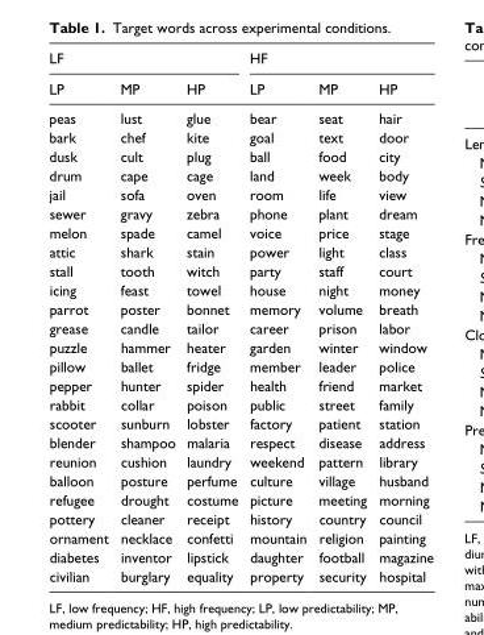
<table><thead><tr><td colspan="3">LF</td><td colspan="3">HF</td></tr><tr><td>LP</td><td>MP</td><td>HP</td><td>LP</td><td>MP</td><td>HP</td></tr></thead><tbody><tr><td>peas</td><td>lust</td><td>glue</td><td>bear</td><td>seat</td><td>hair</td></tr><tr><td>bark</td><td>chef</td><td>kite</td><td>goal</td><td>text</td><td>door</td></tr><tr><td>dusk</td><td>cult</td><td>plug</td><td>ball</td><td>food</td><td>city</td></tr><tr><td>drum</td><td>cape</td><td>cage</td><td>land</td><td>week</td><td>body</td></tr><tr><td>jail</td><td>sofa</td><td>oven</td><td>room</td><td>life</td><td>view</td></tr><tr><td>sewer</td><td>gravy</td><td>zebra</td><td>phone</td><td>plant</td><td>dream</td></tr><tr><td>melon</td><td>spade</td><td>camel</td><td>voice</td><td>price</td><td>stage</td></tr><tr><td>attic</td><td>shark</td><td>stain</td><td>power</td><td>light</td><td>class</td></tr><tr><td>stall</td><td>tooth</td><td>witch</td><td>party</td><td>staff</td><td>court</td></tr><tr><td>icing</td><td>feast</td><td>towel</td><td>house</td><td>night</td><td>money</td></tr><tr><td>parrot</td><td>poster</td><td>bonnet</td><td>memory</td><td>volume</td><td>breath</td></tr><tr><td>grease</td><td>candle</td><td>tailor</td><td>career</td><td>prison</td><td>labor</td></tr><tr><td>puzzle</td><td>hammer</td><td>heater</td><td>garden</td><td>winter</td><td>window</td></tr><tr><td>pillow</td><td>ballet</td><td>fridge</td><td>member</td><td>leader</td><td>police</td></tr><tr><td>pepper</td><td>hunter</td><td>spider</td><td>health</td><td>friend</td><td>market</td></tr><tr><td>rabbit</td><td>collar</td><td>poison</td><td>public</td><td>street</td><td>family</td></tr><tr><td>scooter</td><td>sunburn</td><td>lobster</td><td>factory</td><td>patient</td><td>station</td></tr><tr><td>blender</td><td>shampoo</td><td>malaria</td><td>respect</td><td>disease</td><td>address</td></tr><tr><td>reunion</td><td>cushion</td><td>laundry</td><td>weekend</td><td>pattern</td><td>library</td></tr><tr><td>balloon</td><td>posture</td><td>perfume</td><td>culture</td><td>village</td><td>husband</td></tr><tr><td>refugee</td><td>drought</td><td>costume</td><td>picture</td><td>meeting</td><td>morning</td></tr><tr><td>pottery</td><td>cleaner</td><td>receipt</td><td>history</td><td>country</td><td>council</td></tr><tr><td>ornament</td><td>necklace</td><td>confetti</td><td>mountain</td><td>religion</td><td>painting</td></tr><tr><td>diabetes</td><td>inventor</td><td>lipstick</td><td>daughter</td><td>football</td><td>magazine</td></tr><tr><td>civilian</td><td>burglary</td><td>equality</td><td>property</td><td>security</td><td>hospital</td></tr></tbody></table>